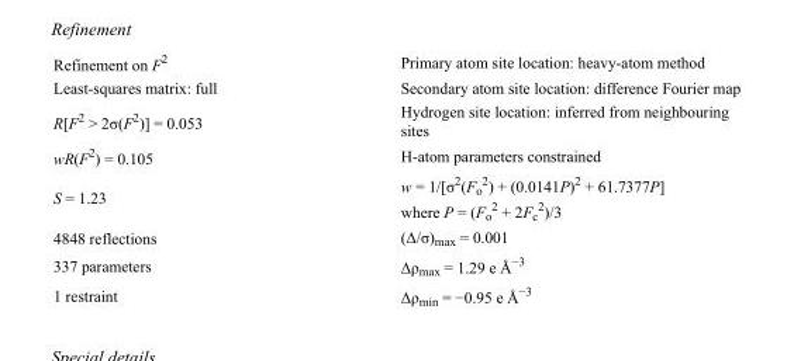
<table><tbody><tr><td>Refinement on F<sup>2</sup></td><td>Primary atom site location: heavy-atom method</td></tr><tr><td>Least-squares matrix: full</td><td>Secondary atom site location: difference Fourier map</td></tr><tr><td>R[F<sup>2</sup> &gt; 2σ(F<sup>2</sup>)] = 0.053</td><td>Hydrogen site location: inferred from neighbouring sites</td></tr><tr><td>wR(F<sup>2</sup>) = 0.105</td><td>H-atom parameters constrained</td></tr><tr><td>S = 1.23</td><td>w = 1/[σ<sup>2</sup>(F<sub>o</sub> <sup>2</sup>) + (0.0141P)<sup>2</sup> + 61.7377P] where P = (F<sub>o</sub> <sup>2</sup> + 2F<sub>c</sub> <sup>2</sup>)/3</td></tr><tr><td>4848 reflections</td><td>(Δ/σ)<sub>max</sub> = 0.001</td></tr><tr><td>337 parameters</td><td>Δρ<sub>max</sub> = 1.29 e Å<sup>−3</sup></td></tr><tr><td>1 restraint</td><td>Δρ<sub>min</sub> = −0.95 e Å<sup>−3</sup></td></tr></tbody></table>